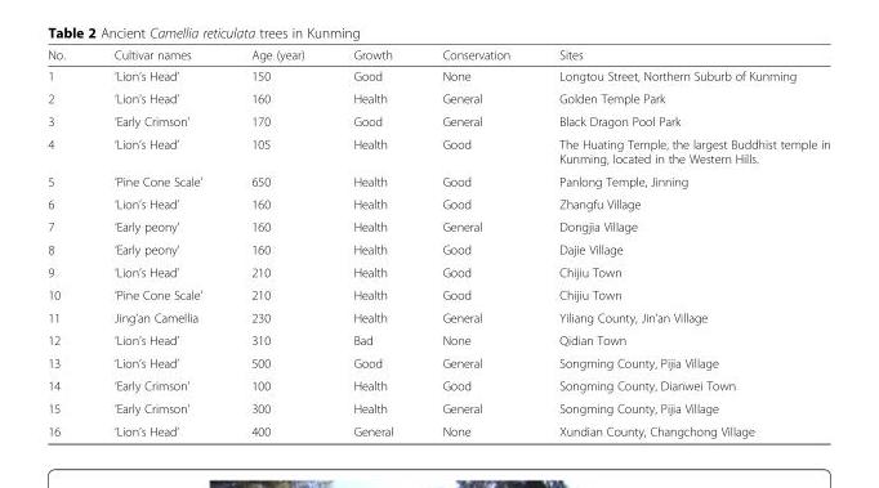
<table><thead><tr><td>No.</td><td>Cultivar names</td><td>Age (year)</td><td>Growth</td><td>Conservation</td><td>Sites</td></tr></thead><tbody><tr><td>1</td><td>‘Lion’s Head’</td><td>150</td><td>Good</td><td>None</td><td>Longtou Street, Northern Suburb of Kunming</td></tr><tr><td>2</td><td>‘Lion’s Head’</td><td>160</td><td>Health</td><td>General</td><td>Golden Temple Park</td></tr><tr><td>3</td><td>‘Early Crimson’</td><td>170</td><td>Good</td><td>General</td><td>Black Dragon Pool Park</td></tr><tr><td>4</td><td>‘Lion’s Head’</td><td>105</td><td>Health</td><td>Good</td><td>The Huating Temple, the largest Buddhist temple in Kunming, located in the Western Hills.</td></tr><tr><td>5</td><td>‘Pine Cone Scale’</td><td>650</td><td>Health</td><td>Good</td><td>Panlong Temple, Jinning</td></tr><tr><td>6</td><td>‘Lion’s Head’</td><td>160</td><td>Health</td><td>Good</td><td>Zhangfu Village</td></tr><tr><td>7</td><td>‘Early peony’</td><td>160</td><td>Health</td><td>General</td><td>Dongjia Village</td></tr><tr><td>8</td><td>‘Early peony’</td><td>160</td><td>Health</td><td>Good</td><td>Dajie Village</td></tr><tr><td>9</td><td>‘Lion’s Head’</td><td>210</td><td>Health</td><td>Good</td><td>Chijiu Town</td></tr><tr><td>10</td><td>‘Pine Cone Scale’</td><td>210</td><td>Health</td><td>Good</td><td>Chijiu Town</td></tr><tr><td>11</td><td>Jing’an Camellia</td><td>230</td><td>Health</td><td>General</td><td>Yiliang County, Jin’an Village</td></tr><tr><td>12</td><td>‘Lion’s Head’</td><td>310</td><td>Bad</td><td>None</td><td>Qidian Town</td></tr><tr><td>13</td><td>‘Lion’s Head’</td><td>500</td><td>Good</td><td>General</td><td>Songming County, Pijia Village</td></tr><tr><td>14</td><td>‘Early Crimson’</td><td>100</td><td>Health</td><td>Good</td><td>Songming County, Dianwei Town</td></tr><tr><td>15</td><td>‘Early Crimson’</td><td>300</td><td>Health</td><td>General</td><td>Songming County, Pijia Village</td></tr><tr><td>16</td><td>‘Lion’s Head’</td><td>400</td><td>General</td><td>None</td><td>Xundian County, Changchong Village</td></tr></tbody></table>